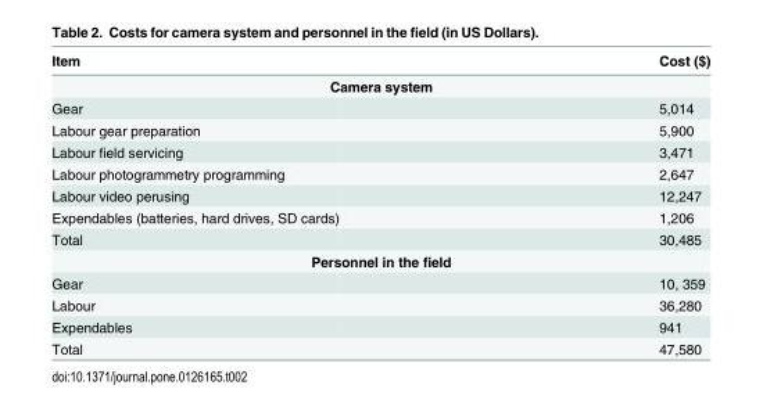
<table><thead><tr><td>Item</td><td>Cost ($)</td></tr></thead><tbody><tr><td colspan="2">Camera system</td></tr><tr><td>Gear</td><td>5,014</td></tr><tr><td>Labour gear preparation</td><td>5,900</td></tr><tr><td>Labour field servicing</td><td>3,471</td></tr><tr><td>Labour photogrammetry programming</td><td>2,647</td></tr><tr><td>Labour video perusing</td><td>12,247</td></tr><tr><td>Expendables (batteries, hard drives, SD cards)</td><td>1,206</td></tr><tr><td>Total</td><td>30,485</td></tr><tr><td colspan="2">Personnel in the field</td></tr><tr><td>Gear</td><td>10, 359</td></tr><tr><td>Labour</td><td>36,280</td></tr><tr><td>Expendables</td><td>941</td></tr><tr><td>Total</td><td>47,580</td></tr></tbody></table>